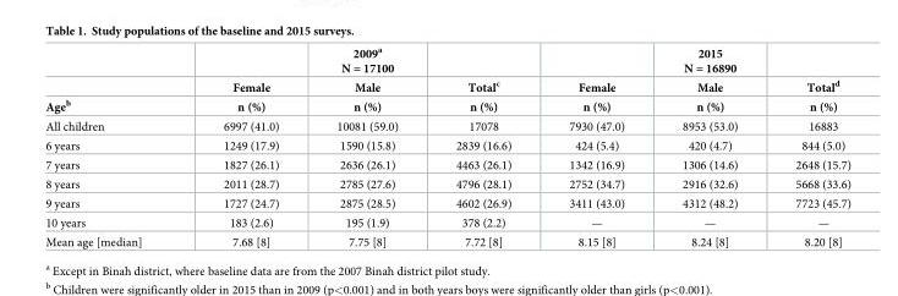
<table><thead><tr><td rowspan="3">Age<sup>b</sup></td><td rowspan="3">Female n (%)</td><td rowspan="3">2009<sup>a</sup> N = 17100 Male n (%)</td><td rowspan="3">Total<sup>c</sup> n (%)</td><td rowspan="3">Female n (%)</td><td rowspan="3">2015 N = 16890 Male n (%)</td><td rowspan="3">Total<sup>d</sup> n (%)</td></tr><tr></tr><tr></tr></thead><tbody><tr><td>All children</td><td>6997 (41.0)</td><td>10081 (59.0)</td><td>17078</td><td>7930 (47.0)</td><td>8953 (53.0)</td><td>16883</td></tr><tr><td>6 years</td><td>1249 (17.9)</td><td>1590 (15.8)</td><td>2839 (16.6)</td><td>424 (5.4)</td><td>420 (4.7)</td><td>844 (5.0)</td></tr><tr><td>7 years</td><td>1827 (26.1)</td><td>2636 (26.1)</td><td>4463 (26.1)</td><td>1342 (16.9)</td><td>1306 (14.6)</td><td>2648 (15.7)</td></tr><tr><td>8 years</td><td>2011 (28.7)</td><td>2785 (27.6)</td><td>4796 (28.1)</td><td>2752 (34.7)</td><td>2916 (32.6)</td><td>5668 (33.6)</td></tr><tr><td>9 years</td><td>1727 (24.7)</td><td>2875 (28.5)</td><td>4602 (26.9)</td><td>3411 (43.0)</td><td>4312 (48.2)</td><td>7723 (45.7)</td></tr><tr><td>10 years</td><td>183 (2.6)</td><td>195 (1.9)</td><td>378 (2.2)</td><td>—</td><td>—</td><td>—</td></tr><tr><td>Mean age [median]</td><td>7.68 [8]</td><td>7.75 [8]</td><td>7.72 [8]</td><td>8.15 [8]</td><td>8.24 [8]</td><td>8.20 [8]</td></tr></tbody></table>